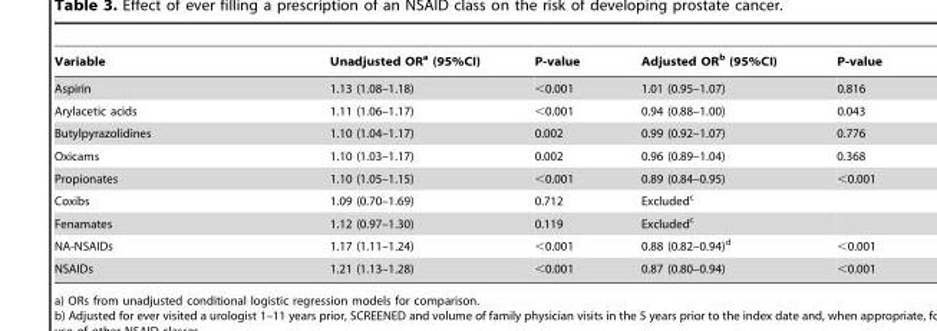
<table><thead><tr><td>Variable</td><td>Unadjusted OR<sup>a</sup> (95%CI)</td><td>P-value</td><td>Adjusted OR<sup>b</sup> (95%CI)</td><td>P-value</td></tr></thead><tbody><tr><td>Aspirin</td><td>1.13 (1.08–1.18)</td><td>&lt;0.001</td><td>1.01 (0.95–1.07)</td><td>0.816</td></tr><tr><td>Arylacetic acids</td><td>1.11 (1.06–1.17)</td><td>&lt;0.001</td><td>0.94 (0.88–1.00)</td><td>0.043</td></tr><tr><td>Butylpyrazolidines</td><td>1.10 (1.04–1.17)</td><td>0.002</td><td>0.99 (0.92–1.07)</td><td>0.776</td></tr><tr><td>Oxicams</td><td>1.10 (1.03–1.17)</td><td>0.002</td><td>0.96 (0.89–1.04)</td><td>0.368</td></tr><tr><td>Propionates</td><td>1.10 (1.05–1.15)</td><td>&lt;0.001</td><td>0.89 (0.84–0.95)</td><td>&lt;0.001</td></tr><tr><td>Coxibs</td><td>1.09 (0.70–1.69)</td><td>0.712</td><td>Excluded<sup>c</sup></td><td></td></tr><tr><td>Fenamates</td><td>1.12 (0.97–1.30)</td><td>0.119</td><td>Excluded<sup>c</sup></td><td></td></tr><tr><td>NA-NSAIDs</td><td>1.17 (1.11–1.24)</td><td>&lt;0.001</td><td>0.88 (0.82–0.94)<sup>d</sup></td><td>&lt;0.001</td></tr><tr><td>NSAIDs</td><td>1.21 (1.13–1.28)</td><td>&lt;0.001</td><td>0.87 (0.80–0.94)</td><td>&lt;0.001</td></tr></tbody></table>